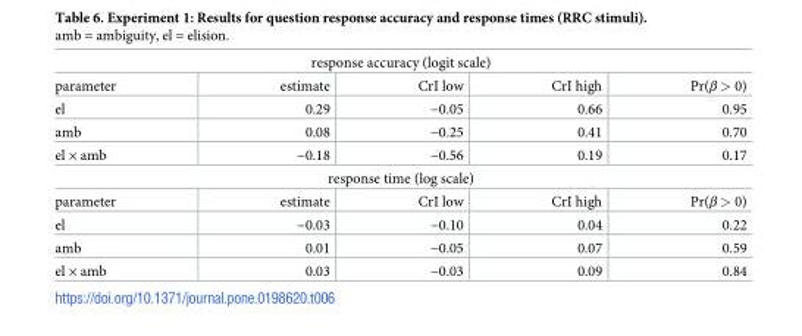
<table><tbody><tr><td colspan="5">response accuracy (logit scale)</td></tr><tr><td>parameter</td><td>estimate</td><td>CrI low</td><td>CrI high</td><td>Pr(β &gt; 0)</td></tr><tr><td>el</td><td>0.29</td><td>−0.05</td><td>0.66</td><td>0.95</td></tr><tr><td>amb</td><td>0.08</td><td>−0.25</td><td>0.41</td><td>0.70</td></tr><tr><td>el × amb</td><td>−0.18</td><td>−0.56</td><td>0.19</td><td>0.17</td></tr><tr><td colspan="5">response time (log scale)</td></tr><tr><td>parameter</td><td>estimate</td><td>CrI low</td><td>CrI high</td><td>Pr(β &gt; 0)</td></tr><tr><td>el</td><td>−0.03</td><td>−0.10</td><td>0.04</td><td>0.22</td></tr><tr><td>amb</td><td>0.01</td><td>−0.05</td><td>0.07</td><td>0.59</td></tr><tr><td>el × amb</td><td>0.03</td><td>−0.03</td><td>0.09</td><td>0.84</td></tr></tbody></table>